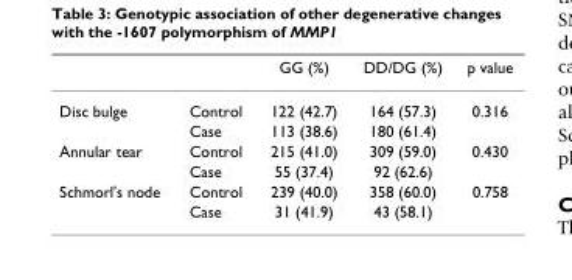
<table><thead><tr><td></td><td></td><td>GG (%)</td><td>DD/DG (%)</td><td>p value</td></tr></thead><tbody><tr><td rowspan="2">Disc bulge</td><td>Control</td><td>122 (42.7)</td><td>164 (57.3)</td><td>0.316</td></tr><tr><td>Case</td><td>113 (38.6)</td><td>180 (61.4)</td><td></td></tr><tr><td rowspan="2">Annular tear</td><td>Control</td><td>215 (41.0)</td><td>309 (59.0)</td><td>0.430</td></tr><tr><td>Case</td><td>55 (37.4)</td><td>92 (62.6)</td><td></td></tr><tr><td rowspan="2">Schmorl&#x27;s node</td><td>Control</td><td>239 (40.0)</td><td>358 (60.0)</td><td>0.758</td></tr><tr><td>Case</td><td>31 (41.9)</td><td>43 (58.1)</td><td></td></tr></tbody></table>